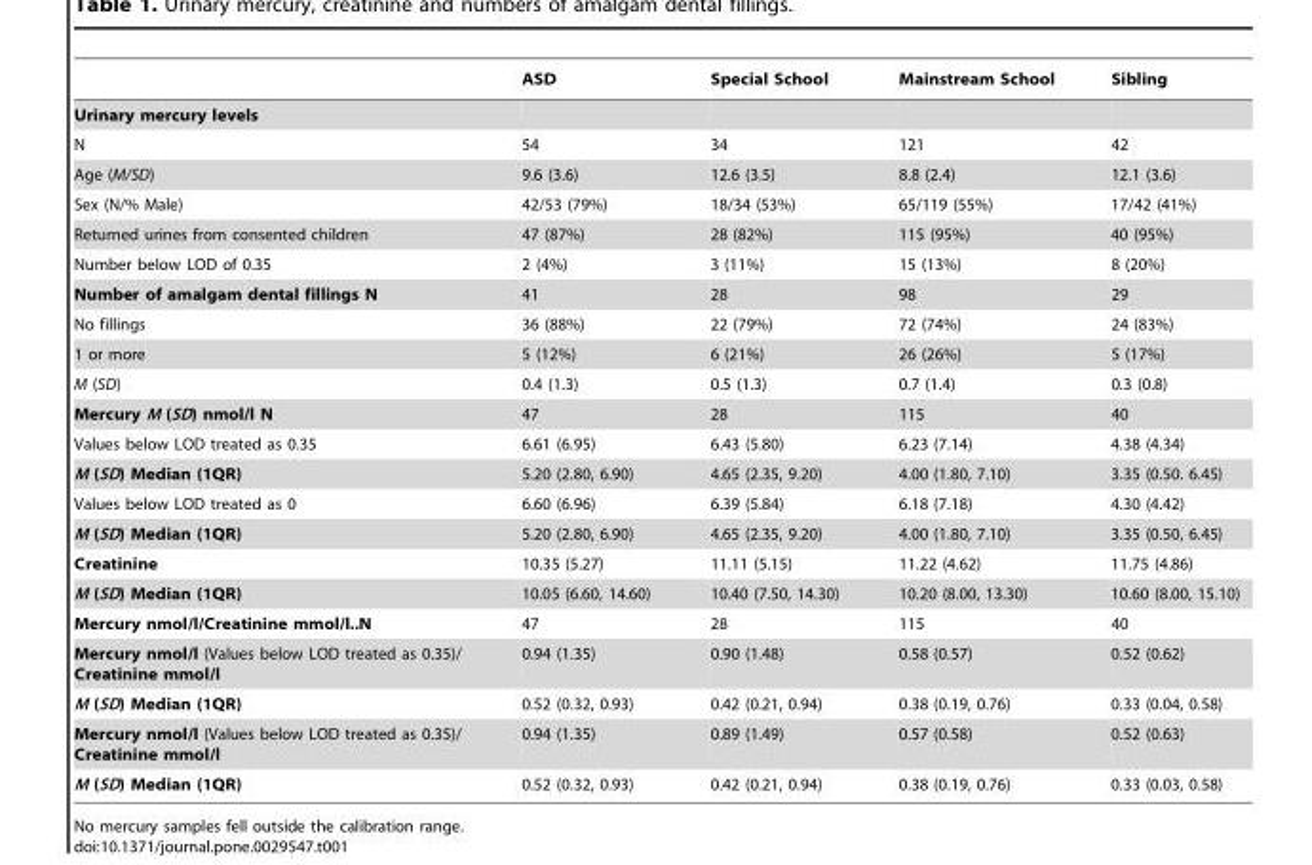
<table><thead><tr><td></td><td>ASD</td><td>Special School</td><td>Mainstream School</td><td>Sibling</td></tr></thead><tbody><tr><td colspan="5">Urinary mercury levels</td></tr><tr><td>N</td><td>54</td><td>34</td><td>121</td><td>42</td></tr><tr><td>Age (M/SD)</td><td>9.6 (3.6)</td><td>12.6 (3.5)</td><td>8.8 (2.4)</td><td>12.1 (3.6)</td></tr><tr><td>Sex (N/% Male)</td><td>42/53 (79%)</td><td>18/34 (53%)</td><td>65/119 (55%)</td><td>17/42 (41%)</td></tr><tr><td>Returned urines from consented children</td><td>47 (87%)</td><td>28 (82%)</td><td>115 (95%)</td><td>40 (95%)</td></tr><tr><td>Number below LOD of 0.35</td><td>2 (4%)</td><td>3 (11%)</td><td>15 (13%)</td><td>8 (20%)</td></tr><tr><td>Number of amalgam dental fillings N</td><td>41</td><td>28</td><td>98</td><td>29</td></tr><tr><td>No fillings</td><td>36 (88%)</td><td>22 (79%)</td><td>72 (74%)</td><td>24 (83%)</td></tr><tr><td>1 or more</td><td>5 (12%)</td><td>6 (21%)</td><td>26 (26%)</td><td>5 (17%)</td></tr><tr><td>M (SD)</td><td>0.4 (1.3)</td><td>0.5 (1.3)</td><td>0.7 (1.4)</td><td>0.3 (0.8)</td></tr><tr><td>Mercury M (SD) nmol/l N</td><td>47</td><td>28</td><td>115</td><td>40</td></tr><tr><td>Values below LOD treated as 0.35</td><td>6.61 (6.95)</td><td>6.43 (5.80)</td><td>6.23 (7.14)</td><td>4.38 (4.34)</td></tr><tr><td>M (SD) Median (1QR)</td><td>5.20 (2.80, 6.90)</td><td>4.65 (2.35, 9.20)</td><td>4.00 (1.80, 7.10)</td><td>3.35 (0.50. 6.45)</td></tr><tr><td>Values below LOD treated as 0</td><td>6.60 (6.96)</td><td>6.39 (5.84)</td><td>6.18 (7.18)</td><td>4.30 (4.42)</td></tr><tr><td>M (SD) Median (1QR)</td><td>5.20 (2.80, 6.90)</td><td>4.65 (2.35, 9.20)</td><td>4.00 (1.80, 7.10)</td><td>3.35 (0.50, 6.45)</td></tr><tr><td>Creatinine</td><td>10.35 (5.27)</td><td>11.11 (5.15)</td><td>11.22 (4.62)</td><td>11.75 (4.86)</td></tr><tr><td>M (SD) Median (1QR)</td><td>10.05 (6.60, 14.60)</td><td>10.40 (7.50, 14.30)</td><td>10.20 (8.00, 13.30)</td><td>10.60 (8.00, 15.10)</td></tr><tr><td>Mercury nmol/l/Creatinine mmol/l..N</td><td>47</td><td>28</td><td>115</td><td>40</td></tr><tr><td>Mercury nmol/l (Values below LOD treated as 0.35)/ Creatinine mmol/l</td><td>0.94 (1.35)</td><td>0.90 (1.48)</td><td>0.58 (0.57)</td><td>0.52 (0.62)</td></tr><tr><td>M (SD) Median (1QR)</td><td>0.52 (0.32, 0.93)</td><td>0.42 (0.21, 0.94)</td><td>0.38 (0.19, 0.76)</td><td>0.33 (0.04, 0.58)</td></tr><tr><td>Mercury nmol/l (Values below LOD treated as 0.35)/ Creatinine mmol/l</td><td>0.94 (1.35)</td><td>0.89 (1.49)</td><td>0.57 (0.58)</td><td>0.52 (0.63)</td></tr><tr><td>M (SD) Median (1QR)</td><td>0.52 (0.32, 0.93)</td><td>0.42 (0.21, 0.94)</td><td>0.38 (0.19, 0.76)</td><td>0.33 (0.03, 0.58)</td></tr></tbody></table>